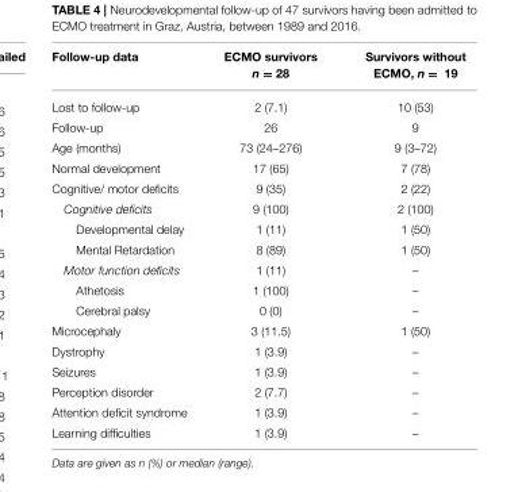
<table><thead><tr><td>Follow-up data</td><td>ECMO survivors n = 28</td><td>Survivors without ECMO, n = 19</td></tr></thead><tbody><tr><td>Lost to follow-up</td><td>2 (7.1)</td><td>10 (53)</td></tr><tr><td>Follow-up</td><td>26</td><td>9</td></tr><tr><td>Age (months)</td><td>73 (24–276)</td><td>9 (3–72)</td></tr><tr><td>Normal development</td><td>17 (65)</td><td>7 (78)</td></tr><tr><td>Cognitive/ motor deficits</td><td>9 (35)</td><td>2 (22)</td></tr><tr><td>Cognitive deficits</td><td>9 (100)</td><td>2 (100)</td></tr><tr><td>Developmental delay</td><td>1 (11)</td><td>1 (50)</td></tr><tr><td>Mental Retardation</td><td>8 (89)</td><td>1 (50)</td></tr><tr><td>Motor function deficits</td><td>1 (11)</td><td>–</td></tr><tr><td>Athetosis</td><td>1 (100)</td><td>–</td></tr><tr><td>Cerebral palsy</td><td>0 (0)</td><td>–</td></tr><tr><td>Microcephaly</td><td>3 (11.5)</td><td>1 (50)</td></tr><tr><td>Dystrophy</td><td>1 (3.9)</td><td>–</td></tr><tr><td>Seizures</td><td>1 (3.9)</td><td>–</td></tr><tr><td>Perception disorder</td><td>2 (7.7)</td><td>–</td></tr><tr><td>Attention deficit syndrome</td><td>1 (3.9)</td><td>–</td></tr><tr><td>Learning difficulties</td><td>1 (3.9)</td><td>–</td></tr></tbody></table>